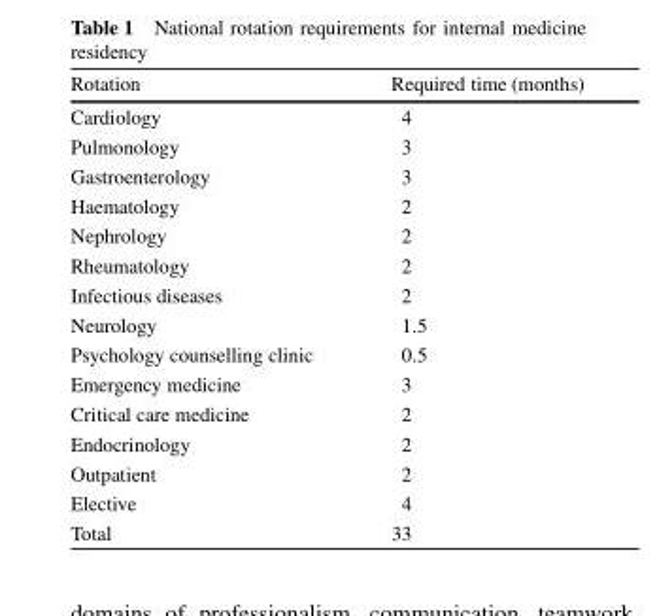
<table><thead><tr><td>Rotation</td><td>Required time (months)</td></tr></thead><tbody><tr><td>Cardiology</td><td>4</td></tr><tr><td>Pulmonology</td><td>3</td></tr><tr><td>Gastroenterology</td><td>3</td></tr><tr><td>Haematology</td><td>2</td></tr><tr><td>Nephrology</td><td>2</td></tr><tr><td>Rheumatology</td><td>2</td></tr><tr><td>Infectious diseases</td><td>2</td></tr><tr><td>Neurology</td><td>1.5</td></tr><tr><td>Psychology counselling clinic</td><td>0.5</td></tr><tr><td>Emergency medicine</td><td>3</td></tr><tr><td>Critical care medicine</td><td>2</td></tr><tr><td>Endocrinology</td><td>2</td></tr><tr><td>Outpatient</td><td>2</td></tr><tr><td>Elective</td><td>4</td></tr><tr><td>Total</td><td>33</td></tr></tbody></table>